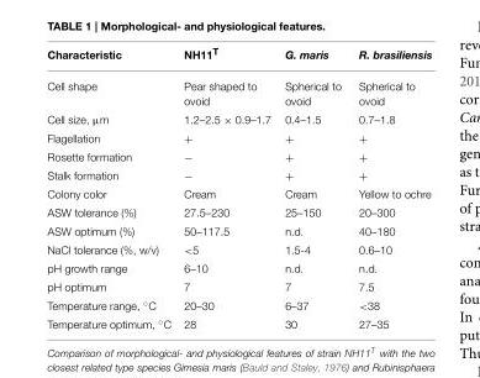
<table><thead><tr><td>Characteristic</td><td>NH11<sup>T</sup></td><td>G. maris</td><td>R. brasiliensis</td></tr></thead><tbody><tr><td>Cell shape</td><td>Pear shaped to ovoid</td><td>Spherical to ovoid</td><td>Spherical to ovoid</td></tr><tr><td>Cell size, µm</td><td>1.2–2.5 × 0.9–1.7</td><td>0.4–1.5</td><td>0.7–1.8</td></tr><tr><td>Flagellation</td><td>+</td><td>+</td><td>+</td></tr><tr><td>Rosette formation</td><td>−</td><td>+</td><td>+</td></tr><tr><td>Stalk formation</td><td>−</td><td>+</td><td>+</td></tr><tr><td>Colony color</td><td>Cream</td><td>Cream</td><td>Yellow to ochre</td></tr><tr><td>ASW tolerance (%)</td><td>27.5–230</td><td>25–150</td><td>20–300</td></tr><tr><td>ASW optimum (%)</td><td>50–117.5</td><td>n.d.</td><td>40–180</td></tr><tr><td>NaCl tolerance (%, w/v)</td><td>&lt;5</td><td>1.5-4</td><td>0.6–10</td></tr><tr><td>pH growth range</td><td>6–10</td><td>n.d.</td><td>n.d.</td></tr><tr><td>pH optimum</td><td>7</td><td>7</td><td>7.5</td></tr><tr><td>Temperature range, ◦C</td><td>20–30</td><td>6–37</td><td>&lt;38</td></tr><tr><td>Temperature optimum, ◦C</td><td>28</td><td>30</td><td>27–35</td></tr></tbody></table>